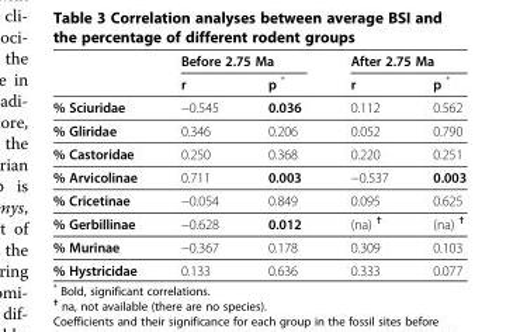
<table><thead><tr><td rowspan="2"></td><td colspan="2">Before 2.75 Ma</td><td colspan="2">After 2.75 Ma</td></tr><tr><td>r</td><td>p *</td><td>r</td><td>p *</td></tr></thead><tbody><tr><td>% Sciuridae</td><td>−0.545</td><td>0.036</td><td>0.112</td><td>0.562</td></tr><tr><td>% Gliridae</td><td>0.346</td><td>0.206</td><td>0.052</td><td>0.790</td></tr><tr><td>% Castoridae</td><td>0.250</td><td>0.368</td><td>0.220</td><td>0.251</td></tr><tr><td>% Arvicolinae</td><td>0.711</td><td>0.003</td><td>−0.537</td><td>0.003</td></tr><tr><td>% Cricetinae</td><td>−0.054</td><td>0.849</td><td>0.095</td><td>0.625</td></tr><tr><td>% Gerbillinae</td><td>−0.628</td><td>0.012</td><td>(na) <sup>†</sup></td><td>(na) <sup>†</sup></td></tr><tr><td>% Murinae</td><td>−0.367</td><td>0.178</td><td>0.309</td><td>0.103</td></tr><tr><td>% Hystricidae</td><td>0.133</td><td>0.636</td><td>0.333</td><td>0.077</td></tr></tbody></table>